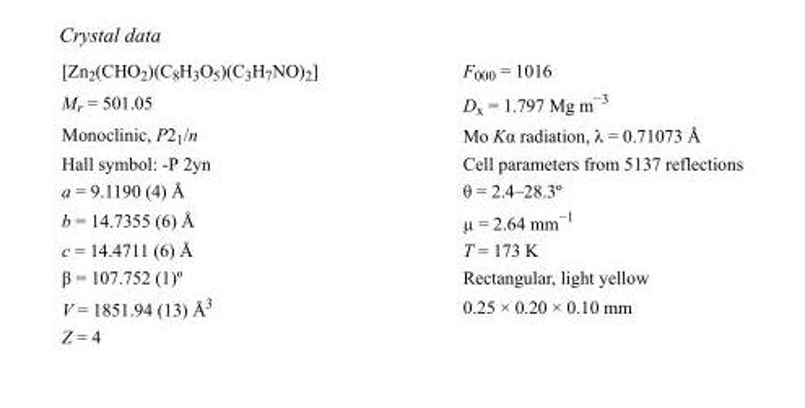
<table><tbody><tr><td>[Zn<sub>2</sub>(CHO<sub>2</sub>)(C<sub>8</sub>H<sub>3</sub>O<sub>5</sub>)(C<sub>3</sub>H<sub>7</sub>NO)<sub>2</sub>]</td><td>F000 = 1016</td></tr><tr><td>M<sub>r</sub> = 501.05</td><td>D<sub>x</sub> = 1.797 Mg m<sup>−3</sup></td></tr><tr><td>Monoclinic, P2<sub>1</sub>/n</td><td>Mo Kα radiation, λ = 0.71073 Å</td></tr><tr><td>Hall symbol: -P 2yn</td><td>Cell parameters from 5137 reflections</td></tr><tr><td>a = 9.1190 (4) Å</td><td>θ = 2.4–28.3º</td></tr><tr><td>b = 14.7355 (6) Å</td><td>µ = 2.64 mm<sup>−1</sup></td></tr><tr><td>c = 14.4711 (6) Å</td><td>T = 173 K</td></tr><tr><td>β = 107.752 (1)º</td><td>Rectangular, light yellow</td></tr><tr><td>V = 1851.94 (13) Å<sup>3</sup></td><td>0.25 × 0.20 × 0.10 mm</td></tr><tr><td>Z = 4</td><td></td></tr></tbody></table>